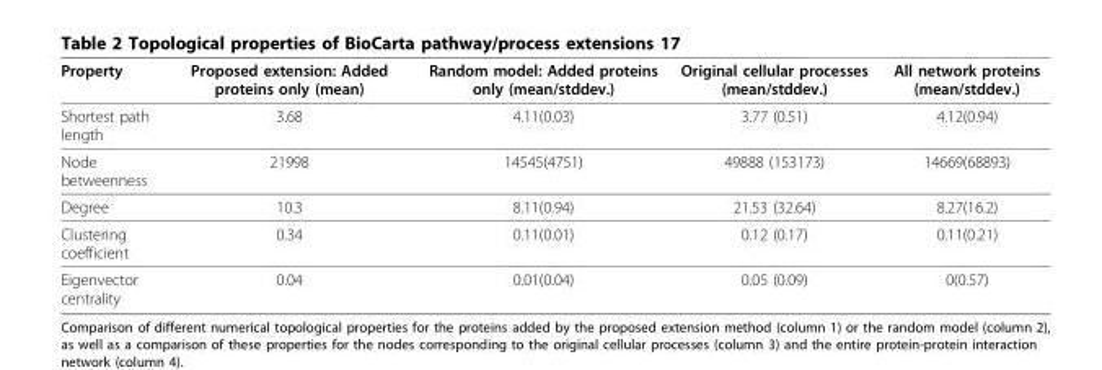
<table><thead><tr><td>Property</td><td>Proposed extension: Added proteins only (mean)</td><td>Random model: Added proteins only (mean/stddev.)</td><td>Original cellular processes (mean/stddev.)</td><td>All network proteins (mean/stddev.)</td></tr></thead><tbody><tr><td>Shortest path length</td><td>3.68</td><td>4.11(0.03)</td><td>3.77 (0.51)</td><td>4.12(0.94)</td></tr><tr><td>Node betweenness</td><td>21998</td><td>14545(4751)</td><td>49888 (153173)</td><td>14669(68893)</td></tr><tr><td>Degree</td><td>10.3</td><td>8.11(0.94)</td><td>21.53 (32.64)</td><td>8.27(16.2)</td></tr><tr><td>Clustering coefficient</td><td>0.34</td><td>0.11(0.01)</td><td>0.12 (0.17)</td><td>0.11(0.21)</td></tr><tr><td>Eigenvector centrality</td><td>0.04</td><td>0.01(0.04)</td><td>0.05 (0.09)</td><td>0(0.57)</td></tr></tbody></table>